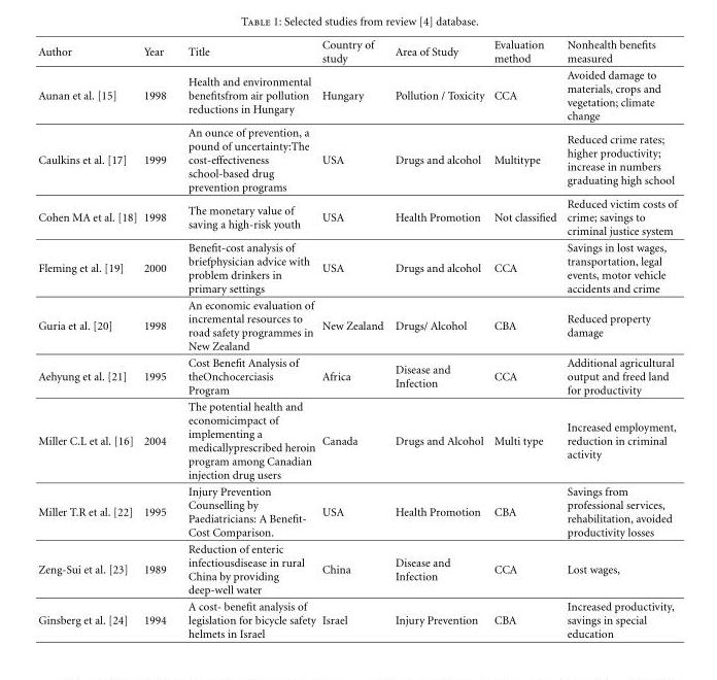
<table><thead><tr><td>Author</td><td>Year</td><td>Title</td><td>Country of study</td><td>Area of Study</td><td>Evaluation method</td><td>Nonhealth benefits measured</td></tr></thead><tbody><tr><td>Aunan et al. [15]</td><td>1998</td><td>Health and environmental benefitsfrom air pollution reductions in Hungary</td><td>Hungary</td><td>Pollution / Toxicity</td><td>CCA</td><td>Avoided damage to materials, crops and vegetation; climate change</td></tr><tr><td>Caulkins et al. [17]</td><td>1999</td><td>An ounce of prevention, a pound of uncertainty:The cost-effectiveness school-based drug prevention programs</td><td>USA</td><td>Drugs and alcohol</td><td>Multitype</td><td>Reduced crime rates; higher productivity; increase in numbers graduating high school</td></tr><tr><td>Cohen MA et al. [18]</td><td>1998</td><td>The monetary value of saving a high-risk youth</td><td>USA</td><td>Health Promotion</td><td>Not classified</td><td>Reduced victim costs of crime; savings to criminal justice system</td></tr><tr><td>Fleming et al. [19]</td><td>2000</td><td>Benefit-cost analysis of briefphysician advice with problem drinkers in primary settings</td><td>USA</td><td>Drugs and alcohol</td><td>CCA</td><td>Savings in lost wages, transportation, legal events, motor vehicle accidents and crime</td></tr><tr><td>Guria et al. [20]</td><td>1998</td><td>An economic evaluation of incremental resources to road safety programmes in New Zealand</td><td>New Zealand</td><td>Drugs/ Alcohol</td><td>CBA</td><td>Reduced property damage</td></tr><tr><td>Aehyung et al. [21]</td><td>1995</td><td>Cost Benefit Analysis of theOnchocerciasis Program</td><td>Africa</td><td>Disease and Infection</td><td>CCA</td><td>Additional agricultural output and freed land for productivity</td></tr><tr><td>Miller C.L et al. [16]</td><td>2004</td><td>The potential health and economicimpact of implementing a medicallyprescribed heroin program among Canadian injection drug users</td><td>Canada</td><td>Drugs and Alcohol</td><td>Multi type</td><td>Increased employment, reduction in criminal activity</td></tr><tr><td>Miller T.R et al. [22]</td><td>1995</td><td>Injury Prevention Counselling by Paediatricians: A Benefit- Cost Comparison.</td><td>USA</td><td>Health Promotion</td><td>CBA</td><td>Savings from professional services, rehabilitation, avoided productivity losses</td></tr><tr><td>Zeng-Sui et al. [23]</td><td>1989</td><td>Reduction of enteric infectiousdisease in rural China by providing deep-well water</td><td>China</td><td>Disease and Infection</td><td>CCA</td><td>Lost wages,</td></tr><tr><td>Ginsberg et al. [24]</td><td>1994</td><td>A cost- benefit analysis of legislation for bicycle safety helmets in Israel</td><td>Israel</td><td>Injury Prevention</td><td>CBA</td><td>Increased productivity, savings in special education</td></tr></tbody></table>